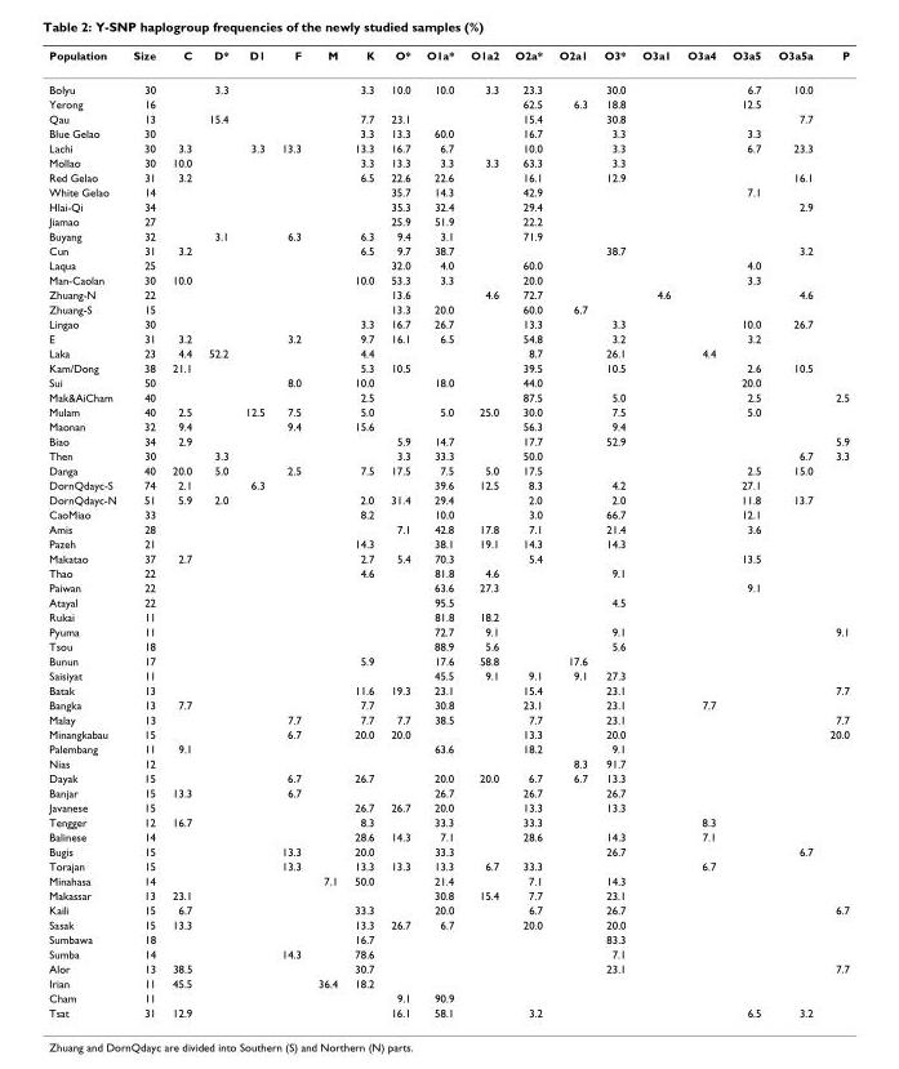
<table><thead><tr><td>Population</td><td>Size</td><td>C</td><td>D*</td><td>D1</td><td>F</td><td>M</td><td>K</td><td>O*</td><td>O1a*</td><td>O1a2</td><td>O2a*</td><td>O2a1</td><td>O3*</td><td>O3a1</td><td>O3a4</td><td>O3a5</td><td>O3a5a</td><td>P</td></tr></thead><tbody><tr><td>Bolyu</td><td>30</td><td></td><td>3.3</td><td></td><td></td><td></td><td>3.3</td><td>10.0</td><td>10.0</td><td>3.3</td><td>23.3</td><td></td><td>30.0</td><td></td><td></td><td>6.7</td><td>10.0</td><td></td></tr><tr><td>Yerong</td><td>16</td><td></td><td></td><td></td><td></td><td></td><td></td><td></td><td></td><td></td><td>62.5</td><td>6.3</td><td>18.8</td><td></td><td></td><td>12.5</td><td></td><td></td></tr><tr><td>Qau</td><td>13</td><td></td><td>15.4</td><td></td><td></td><td></td><td>7.7</td><td>23.1</td><td></td><td></td><td>15.4</td><td></td><td>30.8</td><td></td><td></td><td></td><td>7.7</td><td></td></tr><tr><td>Blue Gelao</td><td>30</td><td></td><td></td><td></td><td></td><td></td><td>3.3</td><td>13.3</td><td>60.0</td><td></td><td>16.7</td><td></td><td>3.3</td><td></td><td></td><td>3.3</td><td></td><td></td></tr><tr><td>Lachi</td><td>30</td><td>3.3</td><td></td><td>3.3</td><td>13.3</td><td></td><td>13.3</td><td>16.7</td><td>6.7</td><td></td><td>10.0</td><td></td><td>3.3</td><td></td><td></td><td>6.7</td><td>23.3</td><td></td></tr><tr><td>Mollao</td><td>30</td><td>10.0</td><td></td><td></td><td></td><td></td><td>3.3</td><td>13.3</td><td>3.3</td><td>3.3</td><td>63.3</td><td></td><td>3.3</td><td></td><td></td><td></td><td></td><td></td></tr><tr><td>Red Gelao</td><td>31</td><td>3.2</td><td></td><td></td><td></td><td></td><td>6.5</td><td>22.6</td><td>22.6</td><td></td><td>16.1</td><td></td><td>12.9</td><td></td><td></td><td></td><td>16.1</td><td></td></tr><tr><td>White Gelao</td><td>14</td><td></td><td></td><td></td><td></td><td></td><td></td><td>35.7</td><td>14.3</td><td></td><td>42.9</td><td></td><td></td><td></td><td></td><td>7.1</td><td></td><td></td></tr><tr><td>Hlai-Qi</td><td>34</td><td></td><td></td><td></td><td></td><td></td><td></td><td>35.3</td><td>32.4</td><td></td><td>29.4</td><td></td><td></td><td></td><td></td><td></td><td>2.9</td><td></td></tr><tr><td>Jiamao</td><td>27</td><td></td><td></td><td></td><td></td><td></td><td></td><td>25.9</td><td>51.9</td><td></td><td>22.2</td><td></td><td></td><td></td><td></td><td></td><td></td><td></td></tr><tr><td>Buyang</td><td>32</td><td></td><td>3.1</td><td></td><td>6.3</td><td></td><td>6.3</td><td>9.4</td><td>3.1</td><td></td><td>71.9</td><td></td><td></td><td></td><td></td><td></td><td></td><td></td></tr><tr><td>Cun</td><td>31</td><td>3.2</td><td></td><td></td><td></td><td></td><td>6.5</td><td>9.7</td><td>38.7</td><td></td><td></td><td></td><td>38.7</td><td></td><td></td><td></td><td>3.2</td><td></td></tr><tr><td>Laqua</td><td>25</td><td></td><td></td><td></td><td></td><td></td><td></td><td>32.0</td><td>4.0</td><td></td><td>60.0</td><td></td><td></td><td></td><td></td><td>4.0</td><td></td><td></td></tr><tr><td>Man-Caolan</td><td>30</td><td>10.0</td><td></td><td></td><td></td><td></td><td>10.0</td><td>53.3</td><td>3.3</td><td></td><td>20.0</td><td></td><td></td><td></td><td></td><td>3.3</td><td></td><td></td></tr><tr><td>Zhuang-N</td><td>22</td><td></td><td></td><td></td><td></td><td></td><td></td><td>13.6</td><td></td><td>4.6</td><td>72.7</td><td></td><td></td><td>4.6</td><td></td><td></td><td>4.6</td><td></td></tr><tr><td>Zhuang-S</td><td>15</td><td></td><td></td><td></td><td></td><td></td><td></td><td>13.3</td><td>20.0</td><td></td><td>60.0</td><td>6.7</td><td></td><td></td><td></td><td></td><td></td><td></td></tr><tr><td>Lingao</td><td>30</td><td></td><td></td><td></td><td></td><td></td><td>3.3</td><td>16.7</td><td>26.7</td><td></td><td>13.3</td><td></td><td>3.3</td><td></td><td></td><td>10.0</td><td>26.7</td><td></td></tr><tr><td>E</td><td>31</td><td>3.2</td><td></td><td></td><td>3.2</td><td></td><td>9.7</td><td>16.1</td><td>6.5</td><td></td><td>54.8</td><td></td><td>3.2</td><td></td><td></td><td>3.2</td><td></td><td></td></tr><tr><td>Laka</td><td>23</td><td>4.4</td><td>52.2</td><td></td><td></td><td></td><td>4.4</td><td></td><td></td><td></td><td>8.7</td><td></td><td>26.1</td><td></td><td>4.4</td><td></td><td></td><td></td></tr><tr><td>Kam/Dong</td><td>38</td><td>21.1</td><td></td><td></td><td></td><td></td><td>5.3</td><td>10.5</td><td></td><td></td><td>39.5</td><td></td><td>10.5</td><td></td><td></td><td>2.6</td><td>10.5</td><td></td></tr><tr><td>Sui</td><td>50</td><td></td><td></td><td></td><td>8.0</td><td></td><td>10.0</td><td></td><td>18.0</td><td></td><td>44.0</td><td></td><td></td><td></td><td></td><td>20.0</td><td></td><td></td></tr><tr><td>Mak&amp;AiCham</td><td>40</td><td></td><td></td><td></td><td></td><td></td><td>2.5</td><td></td><td></td><td></td><td>87.5</td><td></td><td>5.0</td><td></td><td></td><td>2.5</td><td></td><td>2.5</td></tr><tr><td>Mulam</td><td>40</td><td>2.5</td><td></td><td>12.5</td><td>7.5</td><td></td><td>5.0</td><td></td><td>5.0</td><td>25.0</td><td>30.0</td><td></td><td>7.5</td><td></td><td></td><td>5.0</td><td></td><td></td></tr><tr><td>Maonan</td><td>32</td><td>9.4</td><td></td><td></td><td>9.4</td><td></td><td>15.6</td><td></td><td></td><td></td><td>56.3</td><td></td><td>9.4</td><td></td><td></td><td></td><td></td><td></td></tr><tr><td>Biao</td><td>34</td><td>2.9</td><td></td><td></td><td></td><td></td><td></td><td>5.9</td><td>14.7</td><td></td><td>17.7</td><td></td><td>52.9</td><td></td><td></td><td></td><td></td><td>5.9</td></tr><tr><td>Then</td><td>30</td><td></td><td>3.3</td><td></td><td></td><td></td><td></td><td>3.3</td><td>33.3</td><td></td><td>50.0</td><td></td><td></td><td></td><td></td><td></td><td>6.7</td><td>3.3</td></tr><tr><td>Danga</td><td>40</td><td>20.0</td><td>5.0</td><td></td><td>2.5</td><td></td><td>7.5</td><td>17.5</td><td>7.5</td><td>5.0</td><td>17.5</td><td></td><td></td><td></td><td></td><td>2.5</td><td>15.0</td><td></td></tr><tr><td>DornQdayc-S</td><td>74</td><td>2.1</td><td></td><td>6.3</td><td></td><td></td><td></td><td></td><td>39.6</td><td>12.5</td><td>8.3</td><td></td><td>4.2</td><td></td><td></td><td>27.1</td><td></td><td></td></tr><tr><td>DornQdayc-N</td><td>51</td><td>5.9</td><td>2.0</td><td></td><td></td><td></td><td>2.0</td><td>31.4</td><td>29.4</td><td></td><td>2.0</td><td></td><td>2.0</td><td></td><td></td><td>11.8</td><td>13.7</td><td></td></tr><tr><td>CaoMiao</td><td>33</td><td></td><td></td><td></td><td></td><td></td><td>8.2</td><td></td><td>10.0</td><td></td><td>3.0</td><td></td><td>66.7</td><td></td><td></td><td>12.1</td><td></td><td></td></tr><tr><td>Amis</td><td>28</td><td></td><td></td><td></td><td></td><td></td><td></td><td>7.1</td><td>42.8</td><td>17.8</td><td>7.1</td><td></td><td>21.4</td><td></td><td></td><td>3.6</td><td></td><td></td></tr><tr><td>Pazeh</td><td>21</td><td></td><td></td><td></td><td></td><td></td><td>14.3</td><td></td><td>38.1</td><td>19.1</td><td>14.3</td><td></td><td>14.3</td><td></td><td></td><td></td><td></td><td></td></tr><tr><td>Makatao</td><td>37</td><td>2.7</td><td></td><td></td><td></td><td></td><td>2.7</td><td>5.4</td><td>70.3</td><td></td><td>5.4</td><td></td><td></td><td></td><td></td><td>13.5</td><td></td><td></td></tr><tr><td>Thao</td><td>22</td><td></td><td></td><td></td><td></td><td></td><td>4.6</td><td></td><td>81.8</td><td>4.6</td><td></td><td></td><td>9.1</td><td></td><td></td><td></td><td></td><td></td></tr><tr><td>Paiwan</td><td>22</td><td></td><td></td><td></td><td></td><td></td><td></td><td></td><td>63.6</td><td>27.3</td><td></td><td></td><td></td><td></td><td></td><td>9.1</td><td></td><td></td></tr><tr><td>Atayal</td><td>22</td><td></td><td></td><td></td><td></td><td></td><td></td><td></td><td>95.5</td><td></td><td></td><td></td><td>4.5</td><td></td><td></td><td></td><td></td><td></td></tr><tr><td>Rukai</td><td>11</td><td></td><td></td><td></td><td></td><td></td><td></td><td></td><td>81.8</td><td>18.2</td><td></td><td></td><td></td><td></td><td></td><td></td><td></td><td></td></tr><tr><td>Pyuma</td><td>11</td><td></td><td></td><td></td><td></td><td></td><td></td><td></td><td>72.7</td><td>9.1</td><td></td><td></td><td>9.1</td><td></td><td></td><td></td><td></td><td>9.1</td></tr><tr><td>Tsou</td><td>18</td><td></td><td></td><td></td><td></td><td></td><td></td><td></td><td>88.9</td><td>5.6</td><td></td><td></td><td>5.6</td><td></td><td></td><td></td><td></td><td></td></tr><tr><td>Bunun</td><td>17</td><td></td><td></td><td></td><td></td><td></td><td>5.9</td><td></td><td>17.6</td><td>58.8</td><td></td><td>17.6</td><td></td><td></td><td></td><td></td><td></td><td></td></tr><tr><td>Saisiyat</td><td>11</td><td></td><td></td><td></td><td></td><td></td><td></td><td></td><td>45.5</td><td>9.1</td><td>9.1</td><td>9.1</td><td>27.3</td><td></td><td></td><td></td><td></td><td></td></tr><tr><td>Batak</td><td>13</td><td></td><td></td><td></td><td></td><td></td><td>11.6</td><td>19.3</td><td>23.1</td><td></td><td>15.4</td><td></td><td>23.1</td><td></td><td></td><td></td><td></td><td>7.7</td></tr><tr><td>Bangka</td><td>13</td><td>7.7</td><td></td><td></td><td></td><td></td><td>7.7</td><td></td><td>30.8</td><td></td><td>23.1</td><td></td><td>23.1</td><td></td><td>7.7</td><td></td><td></td><td></td></tr><tr><td>Malay</td><td>13</td><td></td><td></td><td></td><td>7.7</td><td></td><td>7.7</td><td>7.7</td><td>38.5</td><td></td><td>7.7</td><td></td><td>23.1</td><td></td><td></td><td></td><td></td><td>7.7</td></tr><tr><td>Minangkabau</td><td>15</td><td></td><td></td><td></td><td>6.7</td><td></td><td>20.0</td><td>20.0</td><td></td><td></td><td>13.3</td><td></td><td>20.0</td><td></td><td></td><td></td><td></td><td>20.0</td></tr><tr><td>Palembang</td><td>11</td><td>9.1</td><td></td><td></td><td></td><td></td><td></td><td></td><td>63.6</td><td></td><td>18.2</td><td></td><td>9.1</td><td></td><td></td><td></td><td></td><td></td></tr><tr><td>Nias</td><td>12</td><td></td><td></td><td></td><td></td><td></td><td></td><td></td><td></td><td></td><td></td><td>8.3</td><td>91.7</td><td></td><td></td><td></td><td></td><td></td></tr><tr><td>Dayak</td><td>15</td><td></td><td></td><td></td><td>6.7</td><td></td><td>26.7</td><td></td><td>20.0</td><td>20.0</td><td>6.7</td><td>6.7</td><td>13.3</td><td></td><td></td><td></td><td></td><td></td></tr><tr><td>Banjar</td><td>15</td><td>13.3</td><td></td><td></td><td>6.7</td><td></td><td></td><td></td><td>26.7</td><td></td><td>26.7</td><td></td><td>26.7</td><td></td><td></td><td></td><td></td><td></td></tr><tr><td>Javanese</td><td>15</td><td></td><td></td><td></td><td></td><td></td><td>26.7</td><td>26.7</td><td>20.0</td><td></td><td>13.3</td><td></td><td>13.3</td><td></td><td></td><td></td><td></td><td></td></tr><tr><td>Tengger</td><td>12</td><td>16.7</td><td></td><td></td><td></td><td></td><td>8.3</td><td></td><td>33.3</td><td></td><td>33.3</td><td></td><td></td><td></td><td>8.3</td><td></td><td></td><td></td></tr><tr><td>Balinese</td><td>14</td><td></td><td></td><td></td><td></td><td></td><td>28.6</td><td>14.3</td><td>7.1</td><td></td><td>28.6</td><td></td><td>14.3</td><td></td><td>7.1</td><td></td><td></td><td></td></tr><tr><td>Bugis</td><td>15</td><td></td><td></td><td></td><td>13.3</td><td></td><td>20.0</td><td></td><td>33.3</td><td></td><td></td><td></td><td>26.7</td><td></td><td></td><td></td><td>6.7</td><td></td></tr><tr><td>Torajan</td><td>15</td><td></td><td></td><td></td><td>13.3</td><td></td><td>13.3</td><td>13.3</td><td>13.3</td><td>6.7</td><td>33.3</td><td></td><td></td><td></td><td>6.7</td><td></td><td></td><td></td></tr><tr><td>Minahasa</td><td>14</td><td></td><td></td><td></td><td></td><td>7.1</td><td>50.0</td><td></td><td>21.4</td><td></td><td>7.1</td><td></td><td>14.3</td><td></td><td></td><td></td><td></td><td></td></tr><tr><td>Makassar</td><td>13</td><td>23.1</td><td></td><td></td><td></td><td></td><td></td><td></td><td>30.8</td><td>15.4</td><td>7.7</td><td></td><td>23.1</td><td></td><td></td><td></td><td></td><td></td></tr><tr><td>Kaili</td><td>15</td><td>6.7</td><td></td><td></td><td></td><td></td><td>33.3</td><td></td><td>20.0</td><td></td><td>6.7</td><td></td><td>26.7</td><td></td><td></td><td></td><td></td><td>6.7</td></tr><tr><td>Sasak</td><td>15</td><td>13.3</td><td></td><td></td><td></td><td></td><td>13.3</td><td>26.7</td><td>6.7</td><td></td><td>20.0</td><td></td><td>20.0</td><td></td><td></td><td></td><td></td><td></td></tr><tr><td>Sumbawa</td><td>18</td><td></td><td></td><td></td><td></td><td></td><td>16.7</td><td></td><td></td><td></td><td></td><td></td><td>83.3</td><td></td><td></td><td></td><td></td><td></td></tr><tr><td>Sumba</td><td>14</td><td></td><td></td><td></td><td>14.3</td><td></td><td>78.6</td><td></td><td></td><td></td><td></td><td></td><td>7.1</td><td></td><td></td><td></td><td></td><td></td></tr><tr><td>Alor</td><td>13</td><td>38.5</td><td></td><td></td><td></td><td></td><td>30.7</td><td></td><td></td><td></td><td></td><td></td><td>23.1</td><td></td><td></td><td></td><td></td><td>7.7</td></tr><tr><td>Irian</td><td>11</td><td>45.5</td><td></td><td></td><td></td><td>36.4</td><td>18.2</td><td></td><td></td><td></td><td></td><td></td><td></td><td></td><td></td><td></td><td></td><td></td></tr><tr><td>Cham</td><td>11</td><td></td><td></td><td></td><td></td><td></td><td></td><td>9.1</td><td>90.9</td><td></td><td></td><td></td><td></td><td></td><td></td><td></td><td></td><td></td></tr><tr><td>Tsat</td><td>31</td><td>12.9</td><td></td><td></td><td></td><td></td><td></td><td>16.1</td><td>58.1</td><td></td><td>3.2</td><td></td><td></td><td></td><td></td><td>6.5</td><td>3.2</td><td></td></tr></tbody></table>